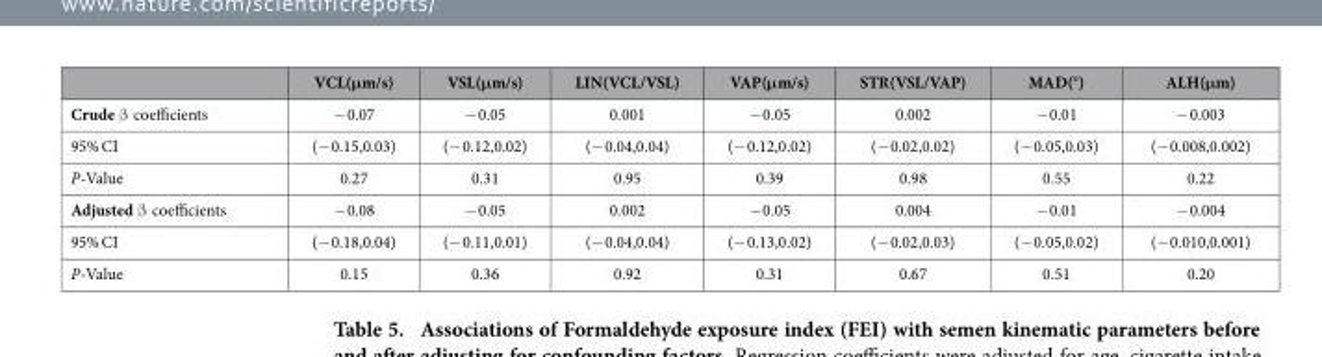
<table><thead><tr><td></td><td>VCL(μm/s)</td><td>VSL(μm/s)</td><td>LIN(VCL/VSL)</td><td>VAP(μm/s)</td><td>STR(VSL/VAP)</td><td>MAD(°)</td><td>ALH(μm)</td></tr></thead><tbody><tr><td>Crude β coefficients</td><td>− 0.07</td><td>− 0.05</td><td>0.001</td><td>− 0.05</td><td>0.002</td><td>− 0.01</td><td>− 0.003</td></tr><tr><td>95% CI</td><td>(− 0.15,0.03)</td><td>(− 0.12,0.02)</td><td>(− 0.04,0.04)</td><td>(− 0.12,0.02)</td><td>(− 0.02,0.02)</td><td>(− 0.05,0.03)</td><td>(− 0.008,0.002)</td></tr><tr><td>P-Value</td><td>0.27</td><td>0.31</td><td>0.95</td><td>0.39</td><td>0.98</td><td>0.55</td><td>0.22</td></tr><tr><td>Adjusted β coefficients</td><td>− 0.08</td><td>− 0.05</td><td>0.002</td><td>− 0.05</td><td>0.004</td><td>− 0.01</td><td>− 0.004</td></tr><tr><td>95% CI</td><td>(− 0.18,0.04)</td><td>(− 0.11,0.01)</td><td>(− 0.04,0.04)</td><td>(− 0.13,0.02)</td><td>(− 0.02,0.03)</td><td>(− 0.05,0.02)</td><td>(− 0.010,0.001)</td></tr><tr><td>P-Value</td><td>0.15</td><td>0.36</td><td>0.92</td><td>0.31</td><td>0.67</td><td>0.51</td><td>0.20</td></tr></tbody></table>